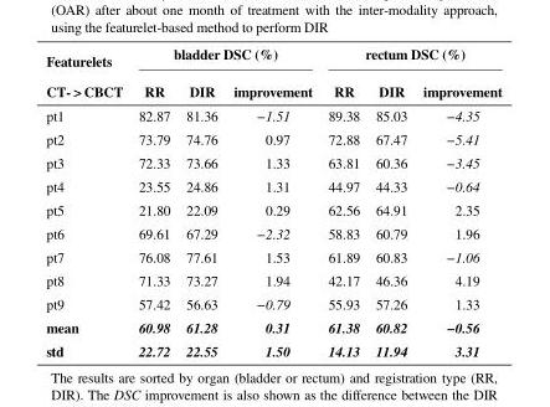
<table><thead><tr><td rowspan="2">Featurelets CT- &gt; CBCT</td><td colspan="3">bladder DSC (%)</td><td colspan="3">rectum DSC (%)</td></tr><tr><td>RR</td><td>DIR</td><td>improvement</td><td>RR</td><td>DIR</td><td>improvement</td></tr></thead><tbody><tr><td>pt1</td><td>82.87</td><td>81.36</td><td>−1.51</td><td>89.38</td><td>85.03</td><td>−4.35</td></tr><tr><td>pt2</td><td>73.79</td><td>74.76</td><td>0.97</td><td>72.88</td><td>67.47</td><td>−5.41</td></tr><tr><td>pt3</td><td>72.33</td><td>73.66</td><td>1.33</td><td>63.81</td><td>60.36</td><td>−3.45</td></tr><tr><td>pt4</td><td>23.55</td><td>24.86</td><td>1.31</td><td>44.97</td><td>44.33</td><td>−0.64</td></tr><tr><td>pt5</td><td>21.80</td><td>22.09</td><td>0.29</td><td>62.56</td><td>64.91</td><td>2.35</td></tr><tr><td>pt6</td><td>69.61</td><td>67.29</td><td>−2.32</td><td>58.83</td><td>60.79</td><td>1.96</td></tr><tr><td>pt7</td><td>76.08</td><td>77.61</td><td>1.53</td><td>61.89</td><td>60.83</td><td>−1.06</td></tr><tr><td>pt8</td><td>71.33</td><td>73.27</td><td>1.94</td><td>42.17</td><td>46.36</td><td>4.19</td></tr><tr><td>pt9</td><td>57.42</td><td>56.63</td><td>−0.79</td><td>55.93</td><td>57.26</td><td>1.33</td></tr><tr><td>mean</td><td>60.98</td><td>61.28</td><td>0.31</td><td>61.38</td><td>60.82</td><td>−0.56</td></tr><tr><td>std</td><td>22.72</td><td>22.55</td><td>1.50</td><td>14.13</td><td>11.94</td><td>3.31</td></tr></tbody></table>